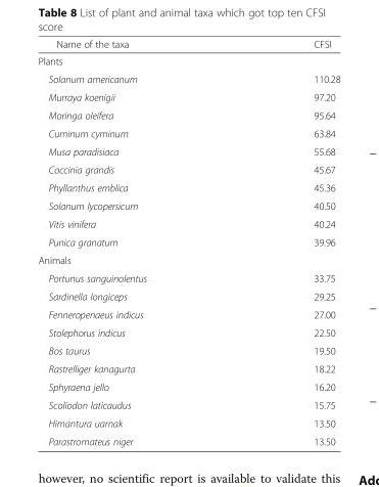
<table><thead><tr><td>Name of the taxa</td><td>CFSI</td></tr></thead><tbody><tr><td colspan="2">Plants</td></tr><tr><td>Solanum americanum</td><td>110.28</td></tr><tr><td>Murraya koenigii</td><td>97.20</td></tr><tr><td>Moringa oleifera</td><td>95.64</td></tr><tr><td>Cuminum cyminum</td><td>63.84</td></tr><tr><td>Musa paradisiaca</td><td>55.68</td></tr><tr><td>Coccinia grandis</td><td>45.67</td></tr><tr><td>Phyllanthus emblica</td><td>45.36</td></tr><tr><td>Solanum lycopersicum</td><td>40.50</td></tr><tr><td>Vitis vinifera</td><td>40.24</td></tr><tr><td>Punica granatum</td><td>39.96</td></tr><tr><td colspan="2">Animals</td></tr><tr><td>Portunus sanguinolentus</td><td>33.75</td></tr><tr><td>Sardinella longiceps</td><td>29.25</td></tr><tr><td>Fenneropenaeus indicus</td><td>27.00</td></tr><tr><td>Stolephorus indicus</td><td>22.50</td></tr><tr><td>Bos taurus</td><td>19.50</td></tr><tr><td>Rastrelliger kanagurta</td><td>18.22</td></tr><tr><td>Sphyraena jello</td><td>16.20</td></tr><tr><td>Scoliodon laticaudus</td><td>15.75</td></tr><tr><td>Himantura uarnak</td><td>13.50</td></tr><tr><td>Parastromateus niger</td><td>13.50</td></tr></tbody></table>